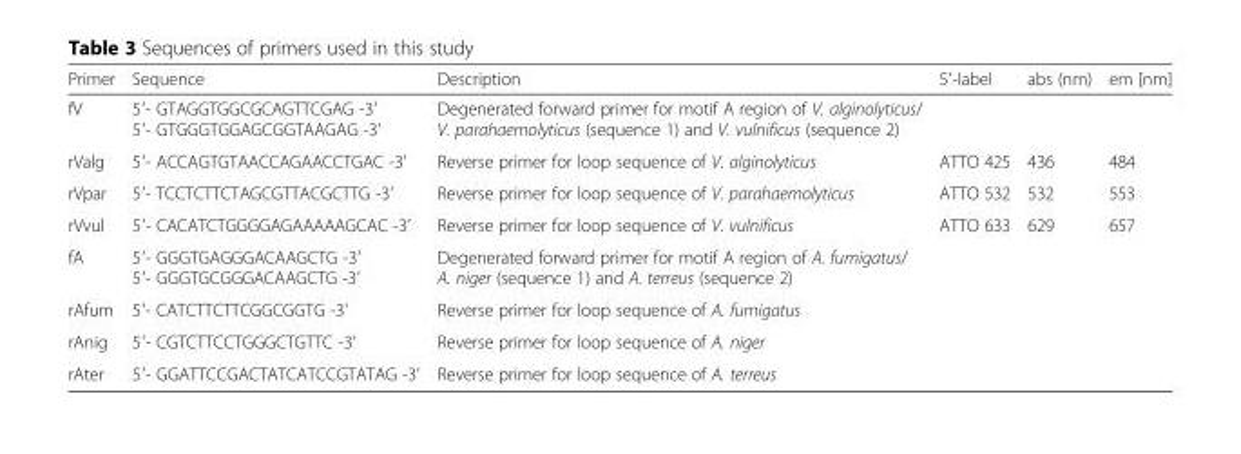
<table><thead><tr><td>Primer</td><td>Sequence</td><td>Description</td><td>5′-label</td><td>abs (nm)</td><td>em [nm]</td></tr></thead><tbody><tr><td>fV</td><td>5′- GTAGGTGGCGCAGTTCGAG -3′ 5′- GTGGGTGGAGCGGTAAGAG -3′</td><td>Degenerated forward primer for motif A region of V. alginolyticus/ V. parahaemolyticus (sequence 1) and V. vulnificus (sequence 2)</td><td></td><td></td><td></td></tr><tr><td>rValg</td><td>5′- ACCAGTGTAACCAGAACCTGAC -3′</td><td>Reverse primer for loop sequence of V. alginolyticus</td><td>ATTO 425</td><td>436</td><td>484</td></tr><tr><td>rVpar</td><td>5′- TCCTCTTCTAGCGTTACGCTTG -3′</td><td>Reverse primer for loop sequence of V. parahaemolyticus</td><td>ATTO 532</td><td>532</td><td>553</td></tr><tr><td>rVvul</td><td>5′- CACATCTGGGGAGAAAAAGCAC -3′</td><td>Reverse primer for loop sequence of V. vulnificus</td><td>ATTO 633</td><td>629</td><td>657</td></tr><tr><td>fA</td><td>5′- GGGTGAGGGACAAGCTG -3′ 5′- GGGTGCGGGACAAGCTG -3′</td><td>Degenerated forward primer for motif A region of A. fumigatus/ A. niger (sequence 1) and A. terreus (sequence 2)</td><td></td><td></td><td></td></tr><tr><td>rAfum</td><td>5′- CATCTTCTTCGGCGGTG -3′</td><td>Reverse primer for loop sequence of A. fumigatus</td><td></td><td></td><td></td></tr><tr><td>rAnig</td><td>5′- CGTCTTCCTGGGCTGTTC -3′</td><td>Reverse primer for loop sequence of A. niger</td><td></td><td></td><td></td></tr><tr><td>rAter</td><td>5′- GGATTCCGACTATCATCCGTATAG -3′</td><td>Reverse primer for loop sequence of A. terreus</td><td></td><td></td><td></td></tr></tbody></table>